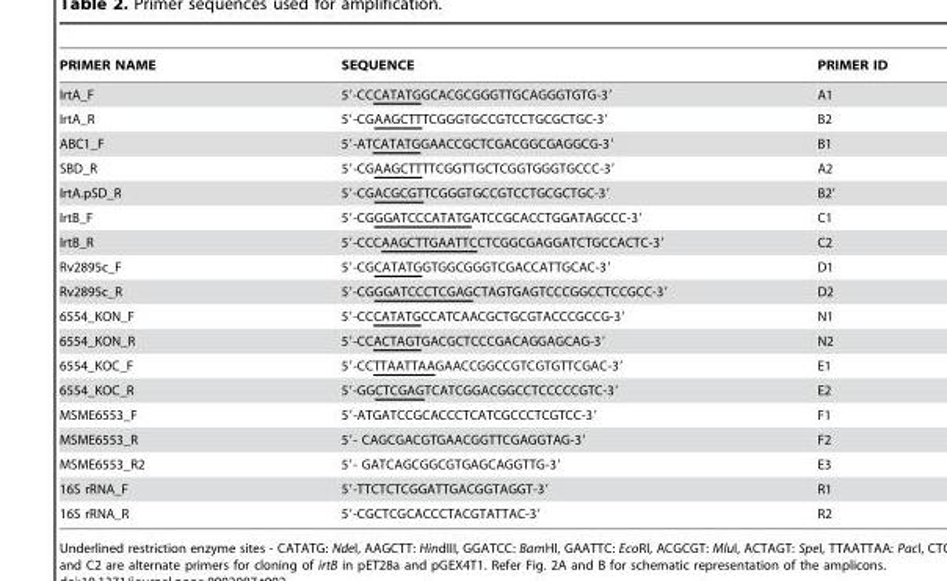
<table><thead><tr><td>PRIMER NAME</td><td>SEQUENCE</td><td>PRIMER ID</td></tr></thead><tbody><tr><td>IrtA_F</td><td>5′-CCCATATGGCACGCGGGTTGCAGGGTGTG-3′</td><td>A1</td></tr><tr><td>IrtA_R</td><td>5′-CGAAGCTTTCGGGTGCCGTCCTGCGCTGC-3′</td><td>B2</td></tr><tr><td>ABC1_F</td><td>5′-ATCATATGGAACCGCTCGACGGCGAGGCG-3′</td><td>B1</td></tr><tr><td>SBD_R</td><td>5′-CGAAGCTTTTCGGTTGCTCGGTGGGTGCCC-3′</td><td>A2</td></tr><tr><td>IrtA.pSD_R</td><td>5′-CGACGCGTTCGGGTGCCGTCCTGCGCTGC-3′</td><td>B2’</td></tr><tr><td>IrtB_F</td><td>5′-CGGGATCCCATATGATCCGCACCTGGATAGCCC-3′</td><td>C1</td></tr><tr><td>IrtB_R</td><td>5′-CCCAAGCTTGAATTCCTCGGCGAGGATCTGCCACTC-3′</td><td>C2</td></tr><tr><td>Rv2895c_F</td><td>5′-CGCATATGGTGGCGGGTCGACCATTGCAC-3′</td><td>D1</td></tr><tr><td>Rv2895c_R</td><td>5′-CGGGATCCCTCGAGCTAGTGAGTCCCGGCCTCCGCC-3′</td><td>D2</td></tr><tr><td>6554_KON_F</td><td>5′-CCCATATGCCATCAACGCTGCGTACCCGCCG-3′</td><td>N1</td></tr><tr><td>6554_KON_R</td><td>5′-CCACTAGTGACGCTCCCGACAGGAGCAG-3′</td><td>N2</td></tr><tr><td>6554_KOC_F</td><td>5′-CCTTAATTAAGAACCGGCCGTCGTGTTCGAC-3′</td><td>E1</td></tr><tr><td>6554_KOC_R</td><td>5′-GGCTCGAGTCATCGGACGGCCTCCCCCGTC-3′</td><td>E2</td></tr><tr><td>MSME6553_F</td><td>5′-ATGATCCGCACCCTCATCGCCCTCGTCC-3′</td><td>F1</td></tr><tr><td>MSME6553_R</td><td>5′- CAGCGACGTGAACGGTTCGAGGTAG-3′</td><td>F2</td></tr><tr><td>MSME6553_R2</td><td>5′- GATCAGCGGCGTGAGCAGGTTG-3′</td><td>E3</td></tr><tr><td>16S rRNA_F</td><td>5′-TTCTCTCGGATTGACGGTAGGT-3′</td><td>R1</td></tr><tr><td>16S rRNA_R</td><td>5′-CGCTCGCACCCTACGTATTAC-3′</td><td>R2</td></tr></tbody></table>